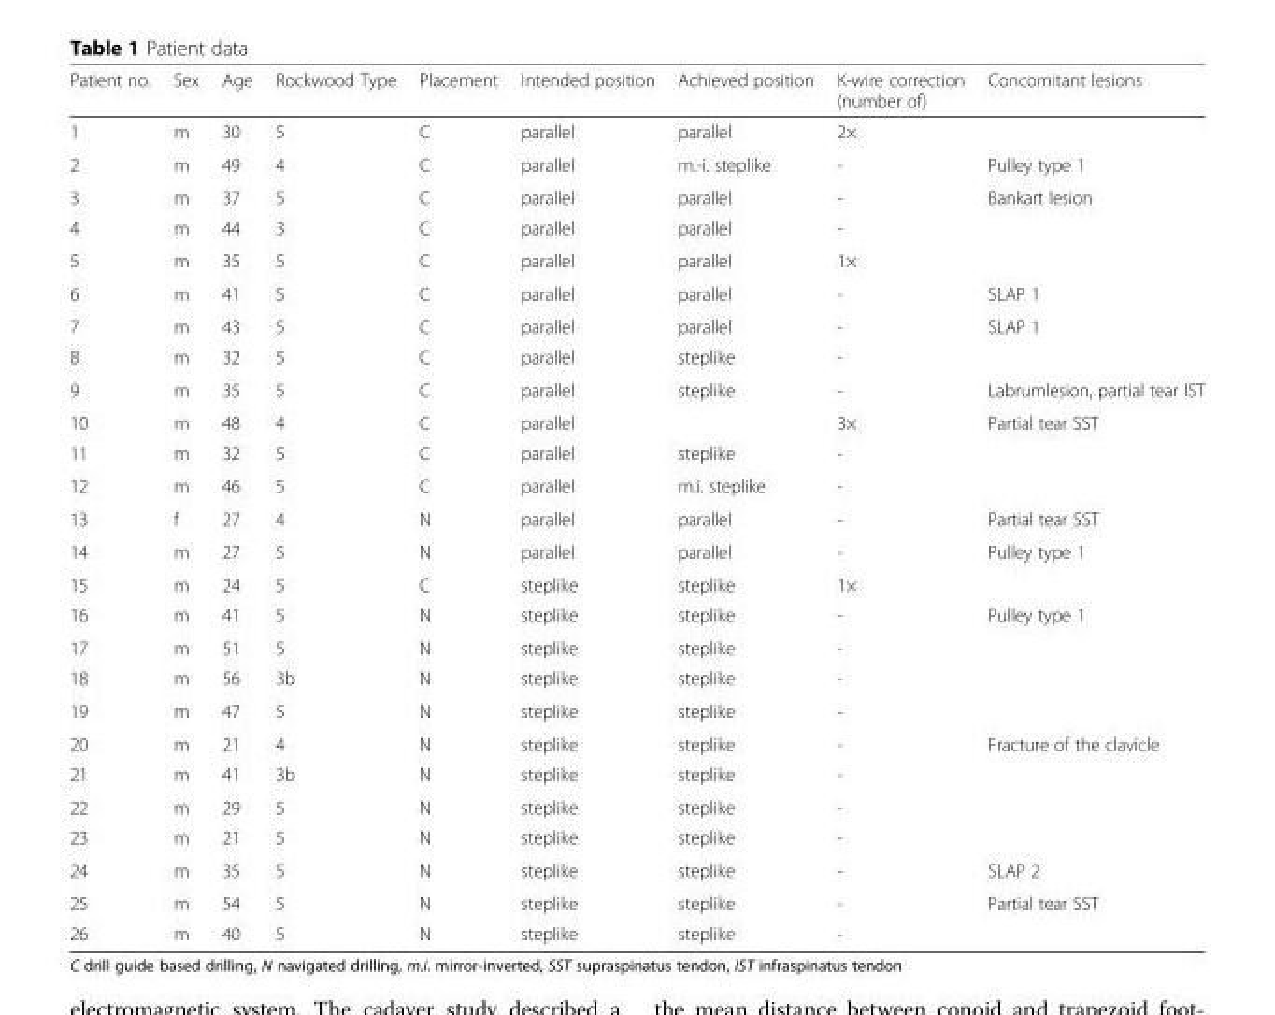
<table><thead><tr><td>Patient no.</td><td>Sex</td><td>Age</td><td>Rockwood Type</td><td>Placement</td><td>Intended position</td><td>Achieved position</td><td>K-wire correction (number of)</td><td>Concomitant lesions</td></tr></thead><tbody><tr><td>1</td><td>m</td><td>30</td><td>5</td><td>C</td><td>parallel</td><td>parallel</td><td>2×</td><td></td></tr><tr><td>2</td><td>m</td><td>49</td><td>4</td><td>C</td><td>parallel</td><td>m.-i. steplike</td><td>-</td><td>Pulley type 1</td></tr><tr><td>3</td><td>m</td><td>37</td><td>5</td><td>C</td><td>parallel</td><td>parallel</td><td>-</td><td>Bankart lesion</td></tr><tr><td>4</td><td>m</td><td>44</td><td>3</td><td>C</td><td>parallel</td><td>parallel</td><td>-</td><td></td></tr><tr><td>5</td><td>m</td><td>35</td><td>5</td><td>C</td><td>parallel</td><td>parallel</td><td>1×</td><td></td></tr><tr><td>6</td><td>m</td><td>41</td><td>5</td><td>C</td><td>parallel</td><td>parallel</td><td>-</td><td>SLAP 1</td></tr><tr><td>7</td><td>m</td><td>43</td><td>5</td><td>C</td><td>parallel</td><td>parallel</td><td>-</td><td>SLAP 1</td></tr><tr><td>8</td><td>m</td><td>32</td><td>5</td><td>C</td><td>parallel</td><td>steplike</td><td>-</td><td></td></tr><tr><td>9</td><td>m</td><td>35</td><td>5</td><td>C</td><td>parallel</td><td>steplike</td><td>-</td><td>Labrumlesion, partial tear IST</td></tr><tr><td>10</td><td>m</td><td>48</td><td>4</td><td>C</td><td>parallel</td><td></td><td>3×</td><td>Partial tear SST</td></tr><tr><td>11</td><td>m</td><td>32</td><td>5</td><td>C</td><td>parallel</td><td>steplike</td><td>-</td><td></td></tr><tr><td>12</td><td>m</td><td>46</td><td>5</td><td>C</td><td>parallel</td><td>m.i. steplike</td><td>-</td><td></td></tr><tr><td>13</td><td>f</td><td>27</td><td>4</td><td>N</td><td>parallel</td><td>parallel</td><td>-</td><td>Partial tear SST</td></tr><tr><td>14</td><td>m</td><td>27</td><td>5</td><td>N</td><td>parallel</td><td>parallel</td><td>-</td><td>Pulley type 1</td></tr><tr><td>15</td><td>m</td><td>24</td><td>5</td><td>C</td><td>steplike</td><td>steplike</td><td>1×</td><td></td></tr><tr><td>16</td><td>m</td><td>41</td><td>5</td><td>N</td><td>steplike</td><td>steplike</td><td>-</td><td>Pulley type 1</td></tr><tr><td>17</td><td>m</td><td>51</td><td>5</td><td>N</td><td>steplike</td><td>steplike</td><td>-</td><td></td></tr><tr><td>18</td><td>m</td><td>56</td><td>3b</td><td>N</td><td>steplike</td><td>steplike</td><td>-</td><td></td></tr><tr><td>19</td><td>m</td><td>47</td><td>5</td><td>N</td><td>steplike</td><td>steplike</td><td>-</td><td></td></tr><tr><td>20</td><td>m</td><td>21</td><td>4</td><td>N</td><td>steplike</td><td>steplike</td><td>-</td><td>Fracture of the clavicle</td></tr><tr><td>21</td><td>m</td><td>41</td><td>3b</td><td>N</td><td>steplike</td><td>steplike</td><td>-</td><td></td></tr><tr><td>22</td><td>m</td><td>29</td><td>5</td><td>N</td><td>steplike</td><td>steplike</td><td>-</td><td></td></tr><tr><td>23</td><td>m</td><td>21</td><td>5</td><td>N</td><td>steplike</td><td>steplike</td><td>-</td><td></td></tr><tr><td>24</td><td>m</td><td>35</td><td>5</td><td>N</td><td>steplike</td><td>steplike</td><td>-</td><td>SLAP 2</td></tr><tr><td>25</td><td>m</td><td>54</td><td>5</td><td>N</td><td>steplike</td><td>steplike</td><td>-</td><td>Partial tear SST</td></tr><tr><td>26</td><td>m</td><td>40</td><td>5</td><td>N</td><td>steplike</td><td>steplike</td><td>-</td><td></td></tr></tbody></table>